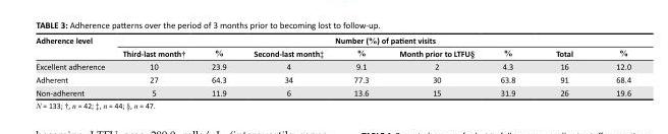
<table><thead><tr><td rowspan="2">Adherence level</td><td colspan="8">Number (%) of patient visits</td></tr><tr><td>Third-last month†</td><td>%</td><td>Second-last month‡</td><td>%</td><td>Month prior to LTFU§</td><td>%</td><td>Total</td><td>%</td></tr></thead><tbody><tr><td>Excellent adherence</td><td>10</td><td>23.9</td><td>4</td><td>9.1</td><td>2</td><td>4.3</td><td>16</td><td>12.0</td></tr><tr><td>Adherent</td><td>27</td><td>64.3</td><td>34</td><td>77.3</td><td>30</td><td>63.8</td><td>91</td><td>68.4</td></tr><tr><td>Non-adherent</td><td>5</td><td>11.9</td><td>6</td><td>13.6</td><td>15</td><td>31.9</td><td>26</td><td>19.6</td></tr></tbody></table>